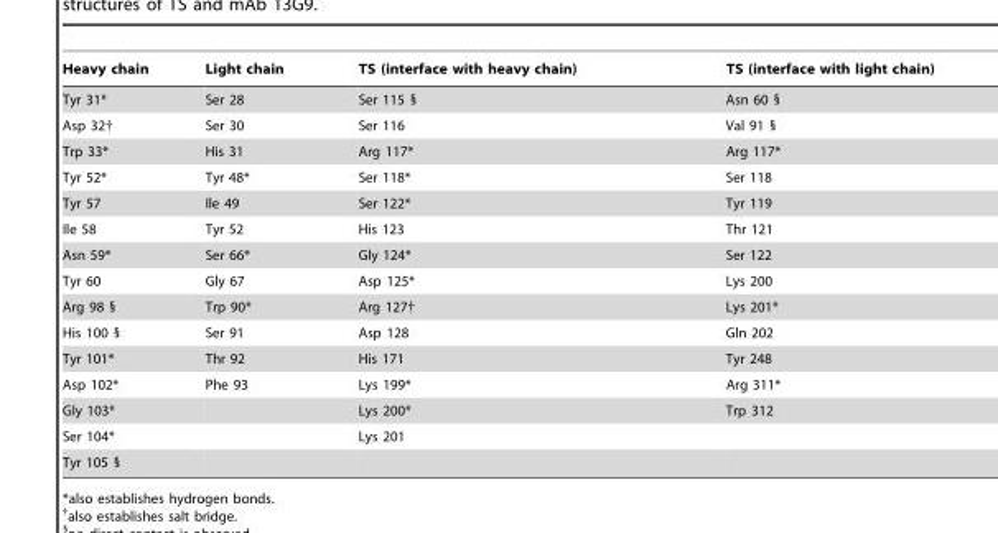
<table><thead><tr><td>Heavy chain</td><td>Light chain</td><td>TS (interface with heavy chain)</td><td>TS (interface with light chain)</td></tr></thead><tbody><tr><td>Tyr 31*</td><td>Ser 28</td><td>Ser 115 §</td><td>Asn 60 §</td></tr><tr><td>Asp 32†</td><td>Ser 30</td><td>Ser 116</td><td>Val 91 §</td></tr><tr><td>Trp 33*</td><td>His 31</td><td>Arg 117*</td><td>Arg 117*</td></tr><tr><td>Tyr 52*</td><td>Tyr 48*</td><td>Ser 118*</td><td>Ser 118</td></tr><tr><td>Tyr 57</td><td>Ile 49</td><td>Ser 122*</td><td>Tyr 119</td></tr><tr><td>Ile 58</td><td>Tyr 52</td><td>His 123</td><td>Thr 121</td></tr><tr><td>Asn 59*</td><td>Ser 66*</td><td>Gly 124*</td><td>Ser 122</td></tr><tr><td>Tyr 60</td><td>Gly 67</td><td>Asp 125*</td><td>Lys 200</td></tr><tr><td>Arg 98 §</td><td>Trp 90*</td><td>Arg 127†</td><td>Lys 201*</td></tr><tr><td>His 100 §</td><td>Ser 91</td><td>Asp 128</td><td>Gln 202</td></tr><tr><td>Tyr 101*</td><td>Thr 92</td><td>His 171</td><td>Tyr 248</td></tr><tr><td>Asp 102*</td><td>Phe 93</td><td>Lys 199*</td><td>Arg 311*</td></tr><tr><td>Gly 103*</td><td></td><td>Lys 200*</td><td>Trp 312</td></tr><tr><td>Ser 104*</td><td></td><td>Lys 201</td><td></td></tr><tr><td>Tyr 105 §</td><td></td><td></td><td></td></tr></tbody></table>